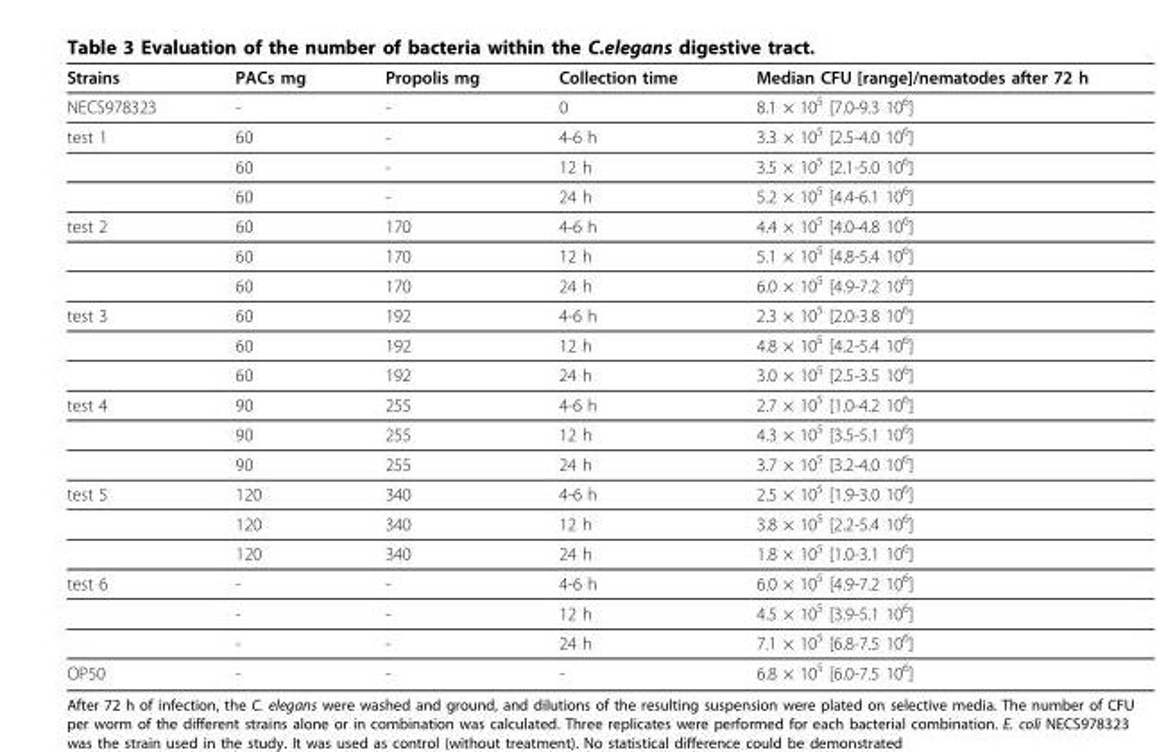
<table><thead><tr><td>Strains</td><td>PACs mg</td><td>Propolis mg</td><td>Collection time</td><td>Median CFU [range]/nematodes after 72 h</td></tr></thead><tbody><tr><td>NECS978323</td><td>-</td><td>-</td><td>0</td><td>8.1 × 105 [7.0-9.3 106]</td></tr><tr><td rowspan="3">test 1</td><td>60</td><td>-</td><td>4-6 h</td><td>3.3 × 105 [2.5-4.0 106]</td></tr><tr><td>60</td><td>-</td><td>12 h</td><td>3.5 × 105 [2.1-5.0 106]</td></tr><tr><td>60</td><td>-</td><td>24 h</td><td>5.2 × 105 [4.4-6.1 106]</td></tr><tr><td rowspan="3">test 2</td><td>60</td><td>170</td><td>4-6 h</td><td>4.4 × 105 [4.0-4.8 106]</td></tr><tr><td>60</td><td>170</td><td>12 h</td><td>5.1 × 105 [4.8-5.4 106]</td></tr><tr><td>60</td><td>170</td><td>24 h</td><td>6.0 × 105 [4.9-7.2 106]</td></tr><tr><td rowspan="3">test 3</td><td>60</td><td>192</td><td>4-6 h</td><td>2.3 × 105 [2.0-3.8 106]</td></tr><tr><td>60</td><td>192</td><td>12 h</td><td>4.8 × 105 [4.2-5.4 106]</td></tr><tr><td>60</td><td>192</td><td>24 h</td><td>3.0 × 105 [2.5-3.5 106]</td></tr><tr><td rowspan="3">test 4</td><td>90</td><td>255</td><td>4-6 h</td><td>2.7 × 105 [1.0-4.2 106]</td></tr><tr><td>90</td><td>255</td><td>12 h</td><td>4.3 × 105 [3.5-5.1 106]</td></tr><tr><td>90</td><td>255</td><td>24 h</td><td>3.7 × 105 [3.2-4.0 106]</td></tr><tr><td rowspan="3">test 5</td><td>120</td><td>340</td><td>4-6 h</td><td>2.5 × 105 [1.9-3.0 106]</td></tr><tr><td>120</td><td>340</td><td>12 h</td><td>3.8 × 105 [2.2-5.4 106]</td></tr><tr><td>120</td><td>340</td><td>24 h</td><td>1.8 × 105 [1.0-3.1 106]</td></tr><tr><td rowspan="3">test 6</td><td>-</td><td>-</td><td>4-6 h</td><td>6.0 × 105 [4.9-7.2 106]</td></tr><tr><td>-</td><td>-</td><td>12 h</td><td>4.5 × 105 [3.9-5.1 106]</td></tr><tr><td>-</td><td>-</td><td>24 h</td><td>7.1 × 105 [6.8-7.5 106]</td></tr><tr><td>OP50</td><td>-</td><td>-</td><td>-</td><td>6.8 × 105 [6.0-7.5 106]</td></tr></tbody></table>